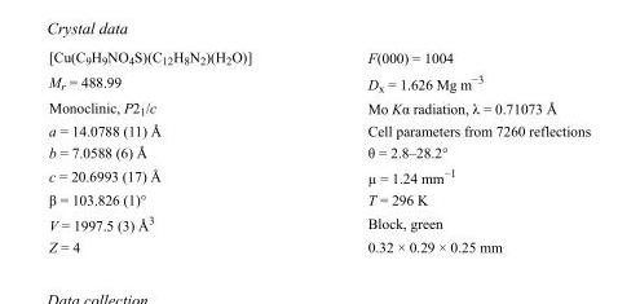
<table><tbody><tr><td>[Cu(C<sub>9</sub>H<sub>9</sub>NO<sub>4</sub>S)(C<sub>12</sub>H<sub>8</sub>N<sub>2</sub>)(H<sub>2</sub>O)]</td><td>F(000) = 1004</td></tr><tr><td>M<sub>r</sub> = 488.99</td><td>D<sub>x</sub> = 1.626 Mg m<sup>−3</sup></td></tr><tr><td>Monoclinic, P2<sub>1</sub>/c</td><td>Mo Kα radiation, λ = 0.71073 Å</td></tr><tr><td>a = 14.0788 (11) Å</td><td>Cell parameters from 7260 reflections</td></tr><tr><td>b = 7.0588 (6) Å</td><td>θ = 2.8–28.2°</td></tr><tr><td>c = 20.6993 (17) Å</td><td>µ = 1.24 mm<sup>−1</sup></td></tr><tr><td>β = 103.826 (1)°</td><td>T = 296 K</td></tr><tr><td>V = 1997.5 (3) Å<sup>3</sup></td><td>Block, green</td></tr><tr><td>Z = 4</td><td>0.32 × 0.29 × 0.25 mm</td></tr></tbody></table>